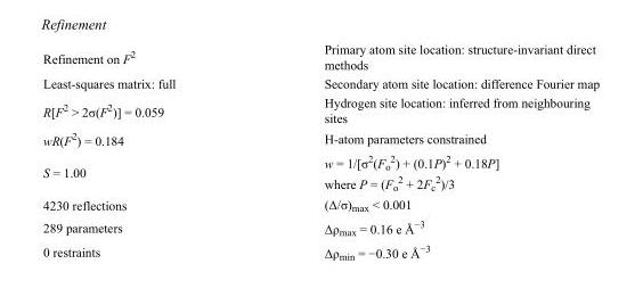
<table><tbody><tr><td>Refinement on F<sup>2</sup></td><td>Primary atom site location: structure-invariant direct methods</td></tr><tr><td>Least-squares matrix: full</td><td>Secondary atom site location: difference Fourier map</td></tr><tr><td>R[F<sup>2</sup> &gt; 2σ(F<sup>2</sup>)] = 0.059</td><td>Hydrogen site location: inferred from neighbouring sites</td></tr><tr><td>wR(F<sup>2</sup>) = 0.184</td><td>H-atom parameters constrained</td></tr><tr><td>S = 1.00</td><td>w = 1/[σ<sup>2</sup>(F<sub>o</sub> <sup>2</sup>) + (0.1P)<sup>2</sup> + 0.18P] where P = (F<sub>o</sub> <sup>2</sup> + 2F<sub>c</sub> <sup>2</sup>)/3</td></tr><tr><td>4230 reflections</td><td>(Δ/σ)<sub>max</sub> &lt; 0.001</td></tr><tr><td>289 parameters</td><td>Δρ<sub>max</sub> = 0.16 e Å<sup>−3</sup></td></tr><tr><td>0 restraints</td><td>Δρ<sub>min</sub> = −0.30 e Å<sup>−3</sup></td></tr></tbody></table>